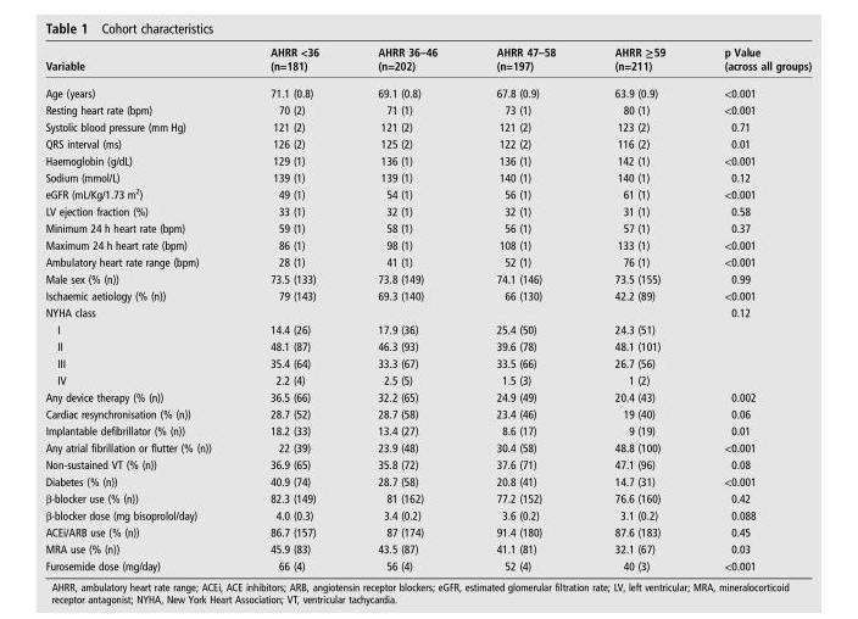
<table><thead><tr><td>Variable</td><td>AHRR &lt;36 (n=181)</td><td>AHRR 36–46 (n=202)</td><td>AHRR 47–58 (n=197)</td><td>AHRR ≥59 (n=211)</td><td>p Value (across all groups)</td></tr></thead><tbody><tr><td>Age (years)</td><td>71.1 (0.8)</td><td>69.1 (0.8)</td><td>67.8 (0.9)</td><td>63.9 (0.9)</td><td>&lt;0.001</td></tr><tr><td>Resting heart rate (bpm)</td><td>70 (2)</td><td>71 (1)</td><td>73 (1)</td><td>80 (1)</td><td>&lt;0.001</td></tr><tr><td>Systolic blood pressure (mm Hg)</td><td>121 (2)</td><td>121 (2)</td><td>121 (2)</td><td>123 (2)</td><td>0.71</td></tr><tr><td>QRS interval (ms)</td><td>126 (2)</td><td>125 (2)</td><td>122 (2)</td><td>116 (2)</td><td>0.01</td></tr><tr><td>Haemoglobin (g/dL)</td><td>129 (1)</td><td>136 (1)</td><td>136 (1)</td><td>142 (1)</td><td>&lt;0.001</td></tr><tr><td>Sodium (mmol/L)</td><td>139 (1)</td><td>139 (1)</td><td>140 (1)</td><td>140 (1)</td><td>0.12</td></tr><tr><td>eGFR (mL/Kg/1.73 m<sup>2</sup>)</td><td>49 (1)</td><td>54 (1)</td><td>56 (1)</td><td>61 (1)</td><td>&lt;0.001</td></tr><tr><td>LV ejection fraction (%)</td><td>33 (1)</td><td>32 (1)</td><td>32 (1)</td><td>31 (1)</td><td>0.58</td></tr><tr><td>Minimum 24 h heart rate (bpm)</td><td>59 (1)</td><td>58 (1)</td><td>56 (1)</td><td>57 (1)</td><td>0.37</td></tr><tr><td>Maximum 24 h heart rate (bpm)</td><td>86 (1)</td><td>98 (1)</td><td>108 (1)</td><td>133 (1)</td><td>&lt;0.001</td></tr><tr><td>Ambulatory heart rate range (bpm)</td><td>28 (1)</td><td>41 (1)</td><td>52 (1)</td><td>76 (1)</td><td>&lt;0.001</td></tr><tr><td>Male sex (% (n))</td><td>73.5 (133)</td><td>73.8 (149)</td><td>74.1 (146)</td><td>73.5 (155)</td><td>0.99</td></tr><tr><td>Ischaemic aetiology (% (n))</td><td>79 (143)</td><td>69.3 (140)</td><td>66 (130)</td><td>42.2 (89)</td><td>&lt;0.001</td></tr><tr><td>NYHA class</td><td></td><td></td><td></td><td></td><td>0.12</td></tr><tr><td>I</td><td>14.4 (26)</td><td>17.9 (36)</td><td>25.4 (50)</td><td>24.3 (51)</td><td></td></tr><tr><td>II</td><td>48.1 (87)</td><td>46.3 (93)</td><td>39.6 (78)</td><td>48.1 (101)</td><td></td></tr><tr><td>III</td><td>35.4 (64)</td><td>33.3 (67)</td><td>33.5 (66)</td><td>26.7 (56)</td><td></td></tr><tr><td>IV</td><td>2.2 (4)</td><td>2.5 (5)</td><td>1.5 (3)</td><td>1 (2)</td><td></td></tr><tr><td>Any device therapy (% (n))</td><td>36.5 (66)</td><td>32.2 (65)</td><td>24.9 (49)</td><td>20.4 (43)</td><td>0.002</td></tr><tr><td>Cardiac resynchronisation (% (n))</td><td>28.7 (52)</td><td>28.7 (58)</td><td>23.4 (46)</td><td>19 (40)</td><td>0.06</td></tr><tr><td>Implantable defibrillator (% (n))</td><td>18.2 (33)</td><td>13.4 (27)</td><td>8.6 (17)</td><td>9 (19)</td><td>0.01</td></tr><tr><td>Any atrial fibrillation or flutter (% (n))</td><td>22 (39)</td><td>23.9 (48)</td><td>30.4 (58)</td><td>48.8 (100)</td><td>&lt;0.001</td></tr><tr><td>Non-sustained VT (% (n))</td><td>36.9 (65)</td><td>35.8 (72)</td><td>37.6 (71)</td><td>47.1 (96)</td><td>0.08</td></tr><tr><td>Diabetes (% (n))</td><td>40.9 (74)</td><td>28.7 (58)</td><td>20.8 (41)</td><td>14.7 (31)</td><td>&lt;0.001</td></tr><tr><td>β-blocker use (% (n))</td><td>82.3 (149)</td><td>81 (162)</td><td>77.2 (152)</td><td>76.6 (160)</td><td>0.42</td></tr><tr><td>β-blocker dose (mg bisoprolol/day)</td><td>4.0 (0.3)</td><td>3.4 (0.2)</td><td>3.6 (0.2)</td><td>3.1 (0.2)</td><td>0.088</td></tr><tr><td>ACEi/ARB use (% (n))</td><td>86.7 (157)</td><td>87 (174)</td><td>91.4 (180)</td><td>87.6 (183)</td><td>0.45</td></tr><tr><td>MRA use (% (n))</td><td>45.9 (83)</td><td>43.5 (87)</td><td>41.1 (81)</td><td>32.1 (67)</td><td>0.03</td></tr><tr><td>Furosemide dose (mg/day)</td><td>66 (4)</td><td>56 (4)</td><td>52 (4)</td><td>40 (3)</td><td>&lt;0.001</td></tr></tbody></table>